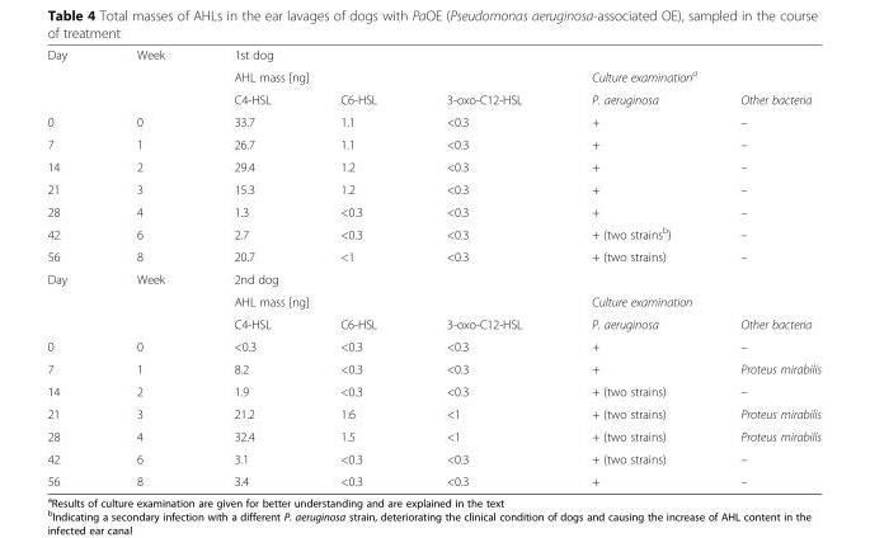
<table><tbody><tr><td rowspan="3">Day</td><td rowspan="3">Week</td><td colspan="5">1st dog</td></tr><tr><td colspan="3">AHL mass [ng]</td><td colspan="2">Culture examination<sup>a</sup></td></tr><tr><td>C4-HSL</td><td>C6-HSL</td><td>3-oxo-C12-HSL</td><td>P. aeruginosa</td><td>Other bacteria</td></tr><tr><td>0</td><td>0</td><td>33.7</td><td>1.1</td><td>&lt;0.3</td><td>+</td><td>–</td></tr><tr><td>7</td><td>1</td><td>26.7</td><td>1.1</td><td>&lt;0.3</td><td>+</td><td>–</td></tr><tr><td>14</td><td>2</td><td>29.4</td><td>1.2</td><td>&lt;0.3</td><td>+</td><td>–</td></tr><tr><td>21</td><td>3</td><td>15.3</td><td>1.2</td><td>&lt;0.3</td><td>+</td><td>–</td></tr><tr><td>28</td><td>4</td><td>1.3</td><td>&lt;0.3</td><td>&lt;0.3</td><td>+</td><td>–</td></tr><tr><td>42</td><td>6</td><td>2.7</td><td>&lt;0.3</td><td>&lt;0.3</td><td>+ (two strains<sup>b</sup>)</td><td>–</td></tr><tr><td>56</td><td>8</td><td>20.7</td><td>&lt;1</td><td>&lt;0.3</td><td>+ (two strains)</td><td>–</td></tr><tr><td rowspan="3">Day</td><td rowspan="3">Week</td><td colspan="5">2nd dog</td></tr><tr><td colspan="3">AHL mass [ng]</td><td colspan="2">Culture examination</td></tr><tr><td>C4-HSL</td><td>C6-HSL</td><td>3-oxo-C12-HSL</td><td>P. aeruginosa</td><td>Other bacteria</td></tr><tr><td>0</td><td>0</td><td>&lt;0.3</td><td>&lt;0.3</td><td>&lt;0.3</td><td>+</td><td>–</td></tr><tr><td>7</td><td>1</td><td>8.2</td><td>&lt;0.3</td><td>&lt;0.3</td><td>+</td><td>Proteus mirabilis</td></tr><tr><td>14</td><td>2</td><td>1.9</td><td>&lt;0.3</td><td>&lt;0.3</td><td>+ (two strains)</td><td>–</td></tr><tr><td>21</td><td>3</td><td>21.2</td><td>1.6</td><td>&lt;1</td><td>+ (two strains)</td><td>Proteus mirabilis</td></tr><tr><td>28</td><td>4</td><td>32.4</td><td>1.5</td><td>&lt;1</td><td>+ (two strains)</td><td>Proteus mirabilis</td></tr><tr><td>42</td><td>6</td><td>3.1</td><td>&lt;0.3</td><td>&lt;0.3</td><td>+ (two strains)</td><td>–</td></tr><tr><td>56</td><td>8</td><td>3.4</td><td>&lt;0.3</td><td>&lt;0.3</td><td>+</td><td>–</td></tr></tbody></table>